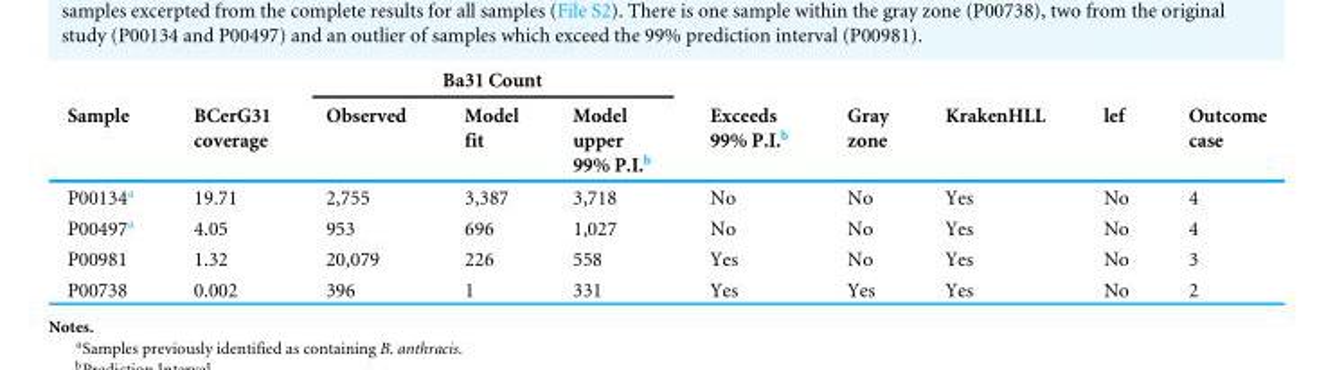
<table><thead><tr><td rowspan="2">Sample</td><td rowspan="2">BCerG31 coverage</td><td colspan="3">Ba31 Count</td><td rowspan="2">Exceeds 99% P.I.<sup>b</sup></td><td rowspan="2">Gray zone</td><td rowspan="2">KrakenHLL</td><td rowspan="2">lef</td><td rowspan="2">Outcome case</td></tr><tr><td>Observed</td><td>Model fit</td><td>Model upper 99% P.I.<sup>b</sup></td></tr></thead><tbody><tr><td>P00134<sup>a</sup></td><td>19.71</td><td>2,755</td><td>3,387</td><td>3,718</td><td>No</td><td>No</td><td>Yes</td><td>No</td><td>4</td></tr><tr><td>P00497<sup>a</sup></td><td>4.05</td><td>953</td><td>696</td><td>1,027</td><td>No</td><td>No</td><td>Yes</td><td>No</td><td>4</td></tr><tr><td>P00981</td><td>1.32</td><td>20,079</td><td>226</td><td>558</td><td>Yes</td><td>No</td><td>Yes</td><td>No</td><td>3</td></tr><tr><td>P00738</td><td>0.002</td><td>396</td><td>1</td><td>331</td><td>Yes</td><td>Yes</td><td>Yes</td><td>No</td><td>2</td></tr></tbody></table>